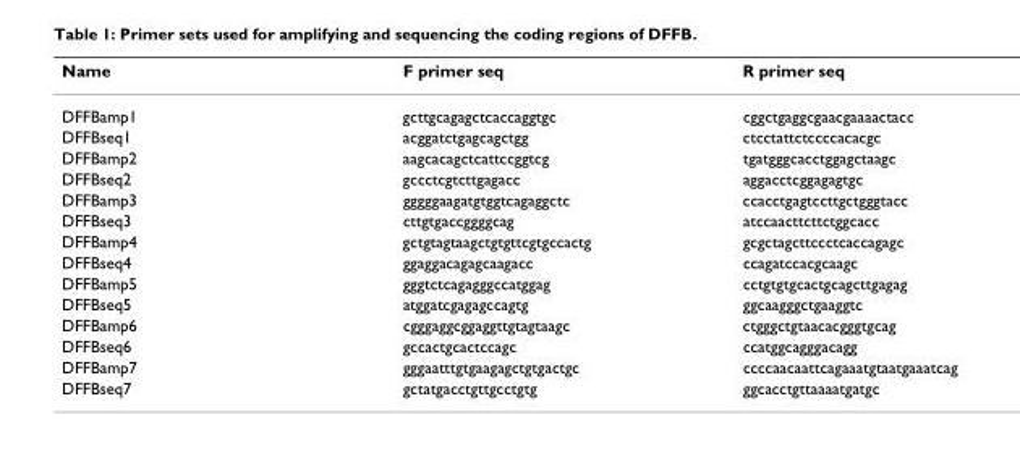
<table><thead><tr><td>Name</td><td>F primer seq</td><td>R primer seq</td></tr></thead><tbody><tr><td>DFFBamp1</td><td>gcttgcagagctcaccaggtgc</td><td>cggctgaggcgaacgaaaactacc</td></tr><tr><td>DFFBseq1</td><td>acggatctgagcagctgg</td><td>ctcctattctccccacacgc</td></tr><tr><td>DFFBamp2</td><td>aagcacagctcattccggtcg</td><td>tgatgggcacctggagctaagc</td></tr><tr><td>DFFBseq2</td><td>gccctcgtcttgagacc</td><td>aggacctcggagagtgc</td></tr><tr><td>DFFBamp3</td><td>gggggaagatgtggtcagaggctc</td><td>ccacctgagtccttgctgggtacc</td></tr><tr><td>DFFBseq3</td><td>cttgtgaccggggcag</td><td>atccaacttcttctggcacc</td></tr><tr><td>DFFBamp4</td><td>gctgtagtaagctgtgttcgtgccactg</td><td>gcgctagcttccctcaccagagc</td></tr><tr><td>DFFBseq4</td><td>ggaggacagagcaagacc</td><td>ccagatccacgcaagc</td></tr><tr><td>DFFBamp5</td><td>gggtctcagagggccatggag</td><td>cctgtgtgcactgcagcttgagag</td></tr><tr><td>DFFBseq5</td><td>atggatcgagagccagtg</td><td>ggcaagggctgaaggtc</td></tr><tr><td>DFFBamp6</td><td>cgggaggcggaggttgtagtaagc</td><td>ctgggctgtaacacgggtgcag</td></tr><tr><td>DFFBseq6</td><td>gccactgcactccagc</td><td>ccatggcagggacagg</td></tr><tr><td>DFFBamp7</td><td>gggaatttgtgaagagctgtgactgc</td><td>ccccaacaattcagaaatgtaatgaaatcag</td></tr><tr><td>DFFBseq7</td><td>gctatgacctgttgcctgtg</td><td>ggcacctgttaaaatgatgc</td></tr></tbody></table>